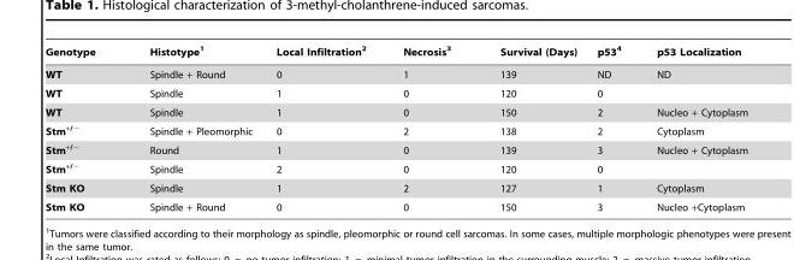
<table><thead><tr><td>Genotype</td><td>Histotype<sup>1</sup></td><td>Local Infiltration<sup>2</sup></td><td>Necrosis<sup>3</sup></td><td>Survival (Days)</td><td>p53<sup>4</sup></td><td>p53 Localization</td></tr></thead><tbody><tr><td>WT</td><td>Spindle + Round</td><td>0</td><td>1</td><td>139</td><td>ND</td><td>ND</td></tr><tr><td>WT</td><td>Spindle</td><td>1</td><td>0</td><td>120</td><td>0</td><td></td></tr><tr><td>WT</td><td>Spindle</td><td>1</td><td>0</td><td>150</td><td>2</td><td>Nucleo + Cytoplasm</td></tr><tr><td>Stm<sup>+/−</sup></td><td>Spindle + Pleomorphic</td><td>0</td><td>2</td><td>138</td><td>2</td><td>Cytoplasm</td></tr><tr><td>Stm<sup>+/−</sup></td><td>Round</td><td>1</td><td>0</td><td>139</td><td>3</td><td>Nucleo + Cytoplasm</td></tr><tr><td>Stm<sup>+/−</sup></td><td>Spindle</td><td>2</td><td>0</td><td>120</td><td>0</td><td></td></tr><tr><td>Stm KO</td><td>Spindle</td><td>1</td><td>2</td><td>127</td><td>1</td><td>Cytoplasm</td></tr><tr><td>Stm KO</td><td>Spindle + Round</td><td>0</td><td>0</td><td>150</td><td>3</td><td>Nucleo +Cytoplasm</td></tr></tbody></table>